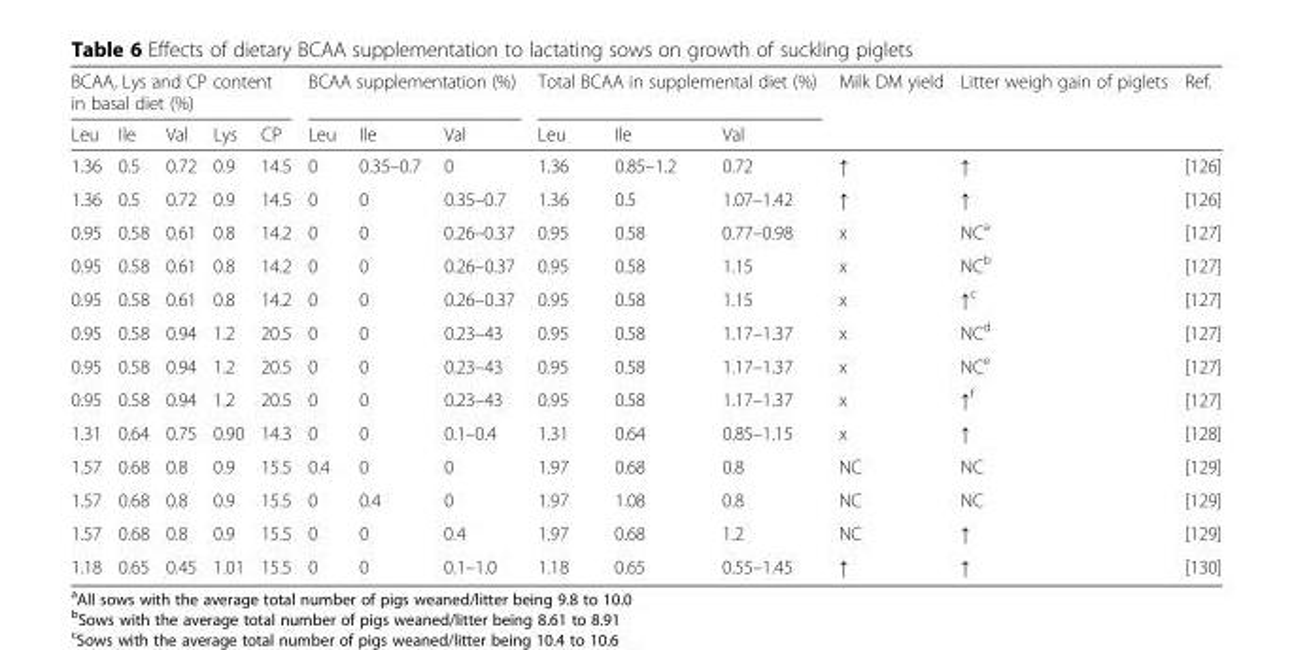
<table><thead><tr><td colspan="5">BCAA, Lys and CP content in basal diet (%)</td><td colspan="3">BCAA supplementation (%)</td><td colspan="3">Total BCAA in supplemental diet (%)</td><td rowspan="2">Milk DM yield</td><td rowspan="2">Litter weigh gain of piglets</td><td rowspan="2">Ref.</td></tr><tr><td>Leu</td><td>Ile</td><td>Val</td><td>Lys</td><td>CP</td><td>Leu</td><td>Ile</td><td>Val</td><td>Leu</td><td>Ile</td><td>Val</td></tr></thead><tbody><tr><td>1.36</td><td>0.5</td><td>0.72</td><td>0.9</td><td>14.5</td><td>0</td><td>0.35–0.7</td><td>0</td><td>1.36</td><td>0.85–1.2</td><td>0.72</td><td>↑</td><td>↑</td><td>[126]</td></tr><tr><td>1.36</td><td>0.5</td><td>0.72</td><td>0.9</td><td>14.5</td><td>0</td><td>0</td><td>0.35–0.7</td><td>1.36</td><td>0.5</td><td>1.07–1.42</td><td>↑</td><td>↑</td><td>[126]</td></tr><tr><td>0.95</td><td>0.58</td><td>0.61</td><td>0.8</td><td>14.2</td><td>0</td><td>0</td><td>0.26–0.37</td><td>0.95</td><td>0.58</td><td>0.77–0.98</td><td>x</td><td>NC<sup>a</sup></td><td>[127]</td></tr><tr><td>0.95</td><td>0.58</td><td>0.61</td><td>0.8</td><td>14.2</td><td>0</td><td>0</td><td>0.26–0.37</td><td>0.95</td><td>0.58</td><td>1.15</td><td>x</td><td>NC<sup>b</sup></td><td>[127]</td></tr><tr><td>0.95</td><td>0.58</td><td>0.61</td><td>0.8</td><td>14.2</td><td>0</td><td>0</td><td>0.26–0.37</td><td>0.95</td><td>0.58</td><td>1.15</td><td>x</td><td>↑<sup>c</sup></td><td>[127]</td></tr><tr><td>0.95</td><td>0.58</td><td>0.94</td><td>1.2</td><td>20.5</td><td>0</td><td>0</td><td>0.23–43</td><td>0.95</td><td>0.58</td><td>1.17–1.37</td><td>x</td><td>NC<sup>d</sup></td><td>[127]</td></tr><tr><td>0.95</td><td>0.58</td><td>0.94</td><td>1.2</td><td>20.5</td><td>0</td><td>0</td><td>0.23–43</td><td>0.95</td><td>0.58</td><td>1.17–1.37</td><td>x</td><td>NC<sup>e</sup></td><td>[127]</td></tr><tr><td>0.95</td><td>0.58</td><td>0.94</td><td>1.2</td><td>20.5</td><td>0</td><td>0</td><td>0.23–43</td><td>0.95</td><td>0.58</td><td>1.17–1.37</td><td>x</td><td>↑<sup>f</sup></td><td>[127]</td></tr><tr><td>1.31</td><td>0.64</td><td>0.75</td><td>0.90</td><td>14.3</td><td>0</td><td>0</td><td>0.1–0.4</td><td>1.31</td><td>0.64</td><td>0.85–1.15</td><td>x</td><td>↑</td><td>[128]</td></tr><tr><td>1.57</td><td>0.68</td><td>0.8</td><td>0.9</td><td>15.5</td><td>0.4</td><td>0</td><td>0</td><td>1.97</td><td>0.68</td><td>0.8</td><td>NC</td><td>NC</td><td>[129]</td></tr><tr><td>1.57</td><td>0.68</td><td>0.8</td><td>0.9</td><td>15.5</td><td>0</td><td>0.4</td><td>0</td><td>1.97</td><td>1.08</td><td>0.8</td><td>NC</td><td>NC</td><td>[129]</td></tr><tr><td>1.57</td><td>0.68</td><td>0.8</td><td>0.9</td><td>15.5</td><td>0</td><td>0</td><td>0.4</td><td>1.97</td><td>0.68</td><td>1.2</td><td>NC</td><td>↑</td><td>[129]</td></tr><tr><td>1.18</td><td>0.65</td><td>0.45</td><td>1.01</td><td>15.5</td><td>0</td><td>0</td><td>0.1–1.0</td><td>1.18</td><td>0.65</td><td>0.55–1.45</td><td>↑</td><td>↑</td><td>[130]</td></tr></tbody></table>